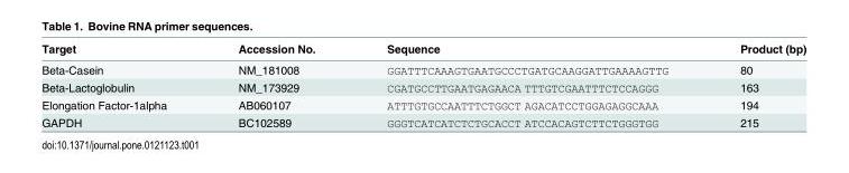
<table><thead><tr><td>Target</td><td>Accession No.</td><td>Sequence</td><td>Product (bp)</td></tr></thead><tbody><tr><td>Beta-Casein</td><td>NM_181008</td><td>GGATTTCAAAGTGAATGCCCTGATGCAAGGATTGAAAAGTTG</td><td>80</td></tr><tr><td>Beta-Lactoglobulin</td><td>NM_173929</td><td>CGATGCCTTGAATGAGAACA TTTGTCGAATTTCTCCAGGG</td><td>163</td></tr><tr><td>Elongation Factor-1alpha</td><td>AB060107</td><td>ATTTGTGCCAATTTCTGGCT AGACATCCTGGAGAGGCAAA</td><td>194</td></tr><tr><td>GAPDH</td><td>BC102589</td><td>GGGTCATCATCTCTGCACCT ATCCACAGTCTTCTGGGTGG</td><td>215</td></tr></tbody></table>